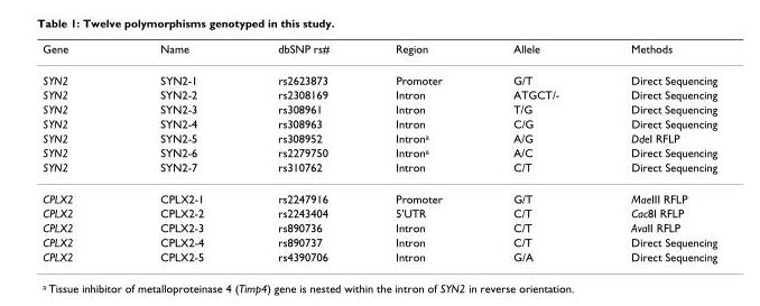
<table><thead><tr><td>Gene</td><td>Name</td><td>dbSNP rs#</td><td>Region</td><td>Allele</td><td>Methods</td></tr></thead><tbody><tr><td>SYN2</td><td>SYN2-1</td><td>rs2623873</td><td>Promoter</td><td>G/T</td><td>Direct Sequencing</td></tr><tr><td>SYN2</td><td>SYN2-2</td><td>rs2308169</td><td>Intron</td><td>ATGCT/-</td><td>Direct Sequencing</td></tr><tr><td>SYN2</td><td>SYN2-3</td><td>rs308961</td><td>Intron</td><td>T/G</td><td>Direct Sequencing</td></tr><tr><td>SYN2</td><td>SYN2-4</td><td>rs308963</td><td>Intron</td><td>C/G</td><td>Direct Sequencing</td></tr><tr><td>SYN2</td><td>SYN2-5</td><td>rs308952</td><td>Intron<sup>a</sup></td><td>A/G</td><td>DdeI RFLP</td></tr><tr><td>SYN2</td><td>SYN2-6</td><td>rs2279750</td><td>Intron<sup>a</sup></td><td>A/C</td><td>Direct Sequencing</td></tr><tr><td>SYN2</td><td>SYN2-7</td><td>rs310762</td><td>Intron</td><td>C/T</td><td>Direct Sequencing</td></tr><tr><td>CPLX2</td><td>CPLX2-1</td><td>rs2247916</td><td>Promoter</td><td>G/T</td><td>MaeIII RFLP</td></tr><tr><td>CPLX2</td><td>CPLX2-2</td><td>rs2243404</td><td>5&#x27;UTR</td><td>C/T</td><td>Cac8I RFLP</td></tr><tr><td>CPLX2</td><td>CPLX2-3</td><td>rs890736</td><td>Intron</td><td>C/T</td><td>AvaII RFLP</td></tr><tr><td>CPLX2</td><td>CPLX2-4</td><td>rs890737</td><td>Intron</td><td>C/T</td><td>Direct Sequencing</td></tr><tr><td>CPLX2</td><td>CPLX2-5</td><td>rs4390706</td><td>Intron</td><td>G/A</td><td>Direct Sequencing</td></tr></tbody></table>